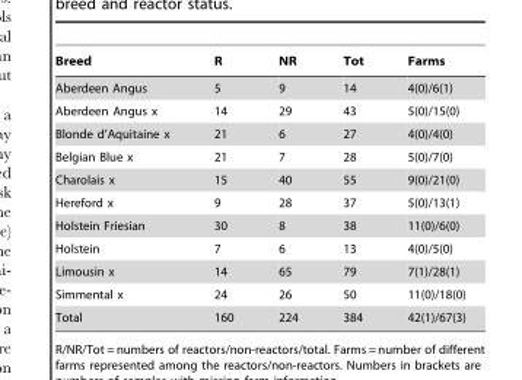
<table><thead><tr><td>Breed</td><td>R</td><td>NR</td><td>Tot</td><td>Farms</td></tr></thead><tbody><tr><td>Aberdeen Angus</td><td>5</td><td>9</td><td>14</td><td>4(0)/6(1)</td></tr><tr><td>Aberdeen Angus x</td><td>14</td><td>29</td><td>43</td><td>5(0)/15(0)</td></tr><tr><td>Blonde d’Aquitaine x</td><td>21</td><td>6</td><td>27</td><td>4(0)/4(0)</td></tr><tr><td>Belgian Blue x</td><td>21</td><td>7</td><td>28</td><td>5(0)/7(0)</td></tr><tr><td>Charolais x</td><td>15</td><td>40</td><td>55</td><td>9(0)/21(0)</td></tr><tr><td>Hereford x</td><td>9</td><td>28</td><td>37</td><td>5(0)/13(1)</td></tr><tr><td>Holstein Friesian</td><td>30</td><td>8</td><td>38</td><td>11(0)/6(0)</td></tr><tr><td>Holstein</td><td>7</td><td>6</td><td>13</td><td>4(0)/5(0)</td></tr><tr><td>Limousin x</td><td>14</td><td>65</td><td>79</td><td>7(1)/28(1)</td></tr><tr><td>Simmental x</td><td>24</td><td>26</td><td>50</td><td>11(0)/18(0)</td></tr><tr><td>Total</td><td>160</td><td>224</td><td>384</td><td>42(1)/67(3)</td></tr></tbody></table>